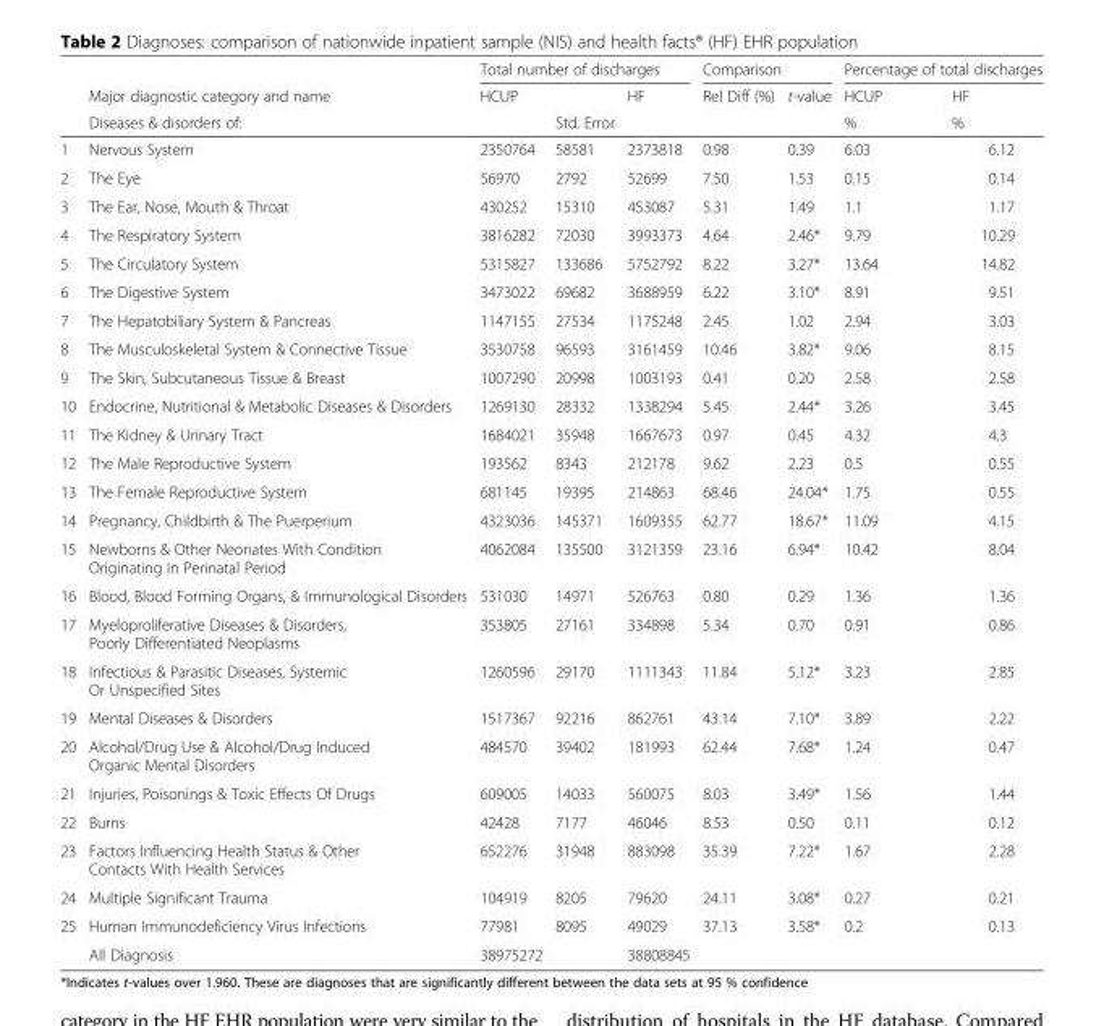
<table><thead><tr><td rowspan="3"></td><td rowspan="3">Major diagnostic category and name Diseases &amp; disorders of:</td><td colspan="3">Total number of discharges</td><td colspan="2">Comparison</td><td colspan="2">Percentage of total discharges</td></tr><tr><td rowspan="2">HCUP</td><td rowspan="2">Std. Error</td><td rowspan="2">HF</td><td rowspan="2">Rel Diff (%)</td><td rowspan="2">t-value</td><td rowspan="2">HCUP %</td><td rowspan="2">HF %</td></tr><tr></tr></thead><tbody><tr><td>1</td><td>Nervous System</td><td>2350764</td><td>58581</td><td>2373818</td><td>0.98</td><td>0.39</td><td>6.03</td><td>6.12</td></tr><tr><td>2</td><td>The Eye</td><td>56970</td><td>2792</td><td>52699</td><td>7.50</td><td>1.53</td><td>0.15</td><td>0.14</td></tr><tr><td>3</td><td>The Ear, Nose, Mouth &amp; Throat</td><td>430252</td><td>15310</td><td>453087</td><td>5.31</td><td>1.49</td><td>1.1</td><td>1.17</td></tr><tr><td>4</td><td>The Respiratory System</td><td>3816282</td><td>72030</td><td>3993373</td><td>4.64</td><td>2.46*</td><td>9.79</td><td>10.29</td></tr><tr><td>5</td><td>The Circulatory System</td><td>5315827</td><td>133686</td><td>5752792</td><td>8.22</td><td>3.27*</td><td>13.64</td><td>14.82</td></tr><tr><td>6</td><td>The Digestive System</td><td>3473022</td><td>69682</td><td>3688959</td><td>6.22</td><td>3.10*</td><td>8.91</td><td>9.51</td></tr><tr><td>7</td><td>The Hepatobiliary System &amp; Pancreas</td><td>1147155</td><td>27534</td><td>1175248</td><td>2.45</td><td>1.02</td><td>2.94</td><td>3.03</td></tr><tr><td>8</td><td>The Musculoskeletal System &amp; Connective Tissue</td><td>3530758</td><td>96593</td><td>3161459</td><td>10.46</td><td>3.82*</td><td>9.06</td><td>8.15</td></tr><tr><td>9</td><td>The Skin, Subcutaneous Tissue &amp; Breast</td><td>1007290</td><td>20998</td><td>1003193</td><td>0.41</td><td>0.20</td><td>2.58</td><td>2.58</td></tr><tr><td>10</td><td>Endocrine, Nutritional &amp; Metabolic Diseases &amp; Disorders</td><td>1269130</td><td>28332</td><td>1338294</td><td>5.45</td><td>2.44*</td><td>3.26</td><td>3.45</td></tr><tr><td>11</td><td>The Kidney &amp; Urinary Tract</td><td>1684021</td><td>35948</td><td>1667673</td><td>0.97</td><td>0.45</td><td>4.32</td><td>4.3</td></tr><tr><td>12</td><td>The Male Reproductive System</td><td>193562</td><td>8343</td><td>212178</td><td>9.62</td><td>2.23</td><td>0.5</td><td>0.55</td></tr><tr><td>13</td><td>The Female Reproductive System</td><td>681145</td><td>19395</td><td>214863</td><td>68.46</td><td>24.04*</td><td>1.75</td><td>0.55</td></tr><tr><td>14</td><td>Pregnancy, Childbirth &amp; The Puerperium</td><td>4323036</td><td>145371</td><td>1609355</td><td>62.77</td><td>18.67*</td><td>11.09</td><td>4.15</td></tr><tr><td>15</td><td>Newborns &amp; Other Neonates With Condition Originating In Perinatal Period</td><td>4062084</td><td>135500</td><td>3121359</td><td>23.16</td><td>6.94*</td><td>10.42</td><td>8.04</td></tr><tr><td>16</td><td>Blood, Blood Forming Organs, &amp; Immunological Disorders</td><td>531030</td><td>14971</td><td>526763</td><td>0.80</td><td>0.29</td><td>1.36</td><td>1.36</td></tr><tr><td>17</td><td>Myeloproliferative Diseases &amp; Disorders, Poorly Differentiated Neoplasms</td><td>353805</td><td>27161</td><td>334898</td><td>5.34</td><td>0.70</td><td>0.91</td><td>0.86</td></tr><tr><td>18</td><td>Infectious &amp; Parasitic Diseases, Systemic Or Unspecified Sites</td><td>1260596</td><td>29170</td><td>1111343</td><td>11.84</td><td>5.12*</td><td>3.23</td><td>2.85</td></tr><tr><td>19</td><td>Mental Diseases &amp; Disorders</td><td>1517367</td><td>92216</td><td>862761</td><td>43.14</td><td>7.10*</td><td>3.89</td><td>2.22</td></tr><tr><td>20</td><td>Alcohol/Drug Use &amp; Alcohol/Drug Induced Organic Mental Disorders</td><td>484570</td><td>39402</td><td>181993</td><td>62.44</td><td>7.68*</td><td>1.24</td><td>0.47</td></tr><tr><td>21</td><td>Injuries, Poisonings &amp; Toxic Effects Of Drugs</td><td>609005</td><td>14033</td><td>560075</td><td>8.03</td><td>3.49*</td><td>1.56</td><td>1.44</td></tr><tr><td>22</td><td>Burns</td><td>42428</td><td>7177</td><td>46046</td><td>8.53</td><td>0.50</td><td>0.11</td><td>0.12</td></tr><tr><td>23</td><td>Factors Influencing Health Status &amp; Other Contacts With Health Services</td><td>652276</td><td>31948</td><td>883098</td><td>35.39</td><td>7.22*</td><td>1.67</td><td>2.28</td></tr><tr><td>24</td><td>Multiple Significant Trauma</td><td>104919</td><td>8205</td><td>79620</td><td>24.11</td><td>3.08*</td><td>0.27</td><td>0.21</td></tr><tr><td rowspan="2">25</td><td>Human Immunodeficiency Virus Infections</td><td>77981</td><td>8095</td><td>49029</td><td>37.13</td><td>3.58*</td><td>0.2</td><td>0.13</td></tr><tr><td>All Diagnosis</td><td>38975272</td><td></td><td>38808845</td><td></td><td></td><td></td><td></td></tr></tbody></table>